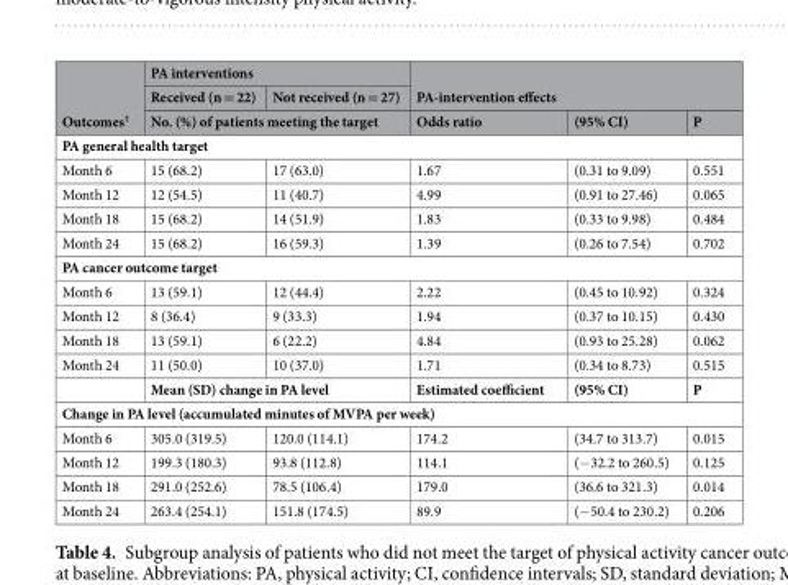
<table><thead><tr><td rowspan="3">Outcomes<sup>†</sup></td><td colspan="2">PA interventions</td><td rowspan="2" colspan="3">PA-intervention effects</td></tr><tr><td>Received (n = 22)</td><td>Not received (n = 27)</td></tr><tr><td colspan="2">No. (%) of patients meeting the target</td><td>Odds ratio</td><td>(95% CI)</td><td>P</td></tr></thead><tbody><tr><td colspan="6">PA general health target</td></tr><tr><td>Month 6</td><td>15 (68.2)</td><td>17 (63.0)</td><td>1.67</td><td>(0.31 to 9.09)</td><td>0.551</td></tr><tr><td>Month 12</td><td>12 (54.5)</td><td>11 (40.7)</td><td>4.99</td><td>(0.91 to 27.46)</td><td>0.065</td></tr><tr><td>Month 18</td><td>15 (68.2)</td><td>14 (51.9)</td><td>1.83</td><td>(0.33 to 9.98)</td><td>0.484</td></tr><tr><td>Month 24</td><td>15 (68.2)</td><td>16 (59.3)</td><td>1.39</td><td>(0.26 to 7.54)</td><td>0.702</td></tr><tr><td colspan="6">PA cancer outcome target</td></tr><tr><td>Month 6</td><td>13 (59.1)</td><td>12 (44.4)</td><td>2.22</td><td>(0.45 to 10.92)</td><td>0.324</td></tr><tr><td>Month 12</td><td>8 (36.4)</td><td>9 (33.3)</td><td>1.94</td><td>(0.37 to 10.15)</td><td>0.430</td></tr><tr><td>Month 18</td><td>13 (59.1)</td><td>6 (22.2)</td><td>4.84</td><td>(0.93 to 25.28)</td><td>0.062</td></tr><tr><td rowspan="2">Month 24</td><td>11 (50.0)</td><td>10 (37.0)</td><td>1.71</td><td>(0.34 to 8.73)</td><td>0.515</td></tr><tr><td colspan="2">Mean (SD) change in PA level</td><td>Estimated coefficient</td><td>(95% CI)</td><td>P</td></tr><tr><td colspan="6">Change in PA level (accumulated minutes of MVPA per week)</td></tr><tr><td>Month 6</td><td>305.0 (319.5)</td><td>120.0 (114.1)</td><td>174.2</td><td>(34.7 to 313.7)</td><td>0.015</td></tr><tr><td>Month 12</td><td>199.3 (180.3)</td><td>93.8 (112.8)</td><td>114.1</td><td>(−32.2 to 260.5)</td><td>0.125</td></tr><tr><td>Month 18</td><td>291.0 (252.6)</td><td>78.5 (106.4)</td><td>179.0</td><td>(36.6 to 321.3)</td><td>0.014</td></tr><tr><td>Month 24</td><td>263.4 (254.1)</td><td>151.8 (174.5)</td><td>89.9</td><td>(−50.4 to 230.2)</td><td>0.206</td></tr></tbody></table>